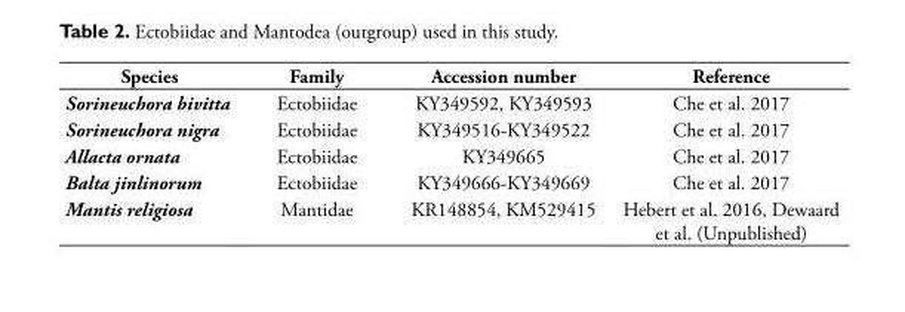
<table><thead><tr><td>Species</td><td>Family</td><td>Accession number</td><td>Reference</td></tr></thead><tbody><tr><td>Sorineuchora bivitta</td><td>Ectobiidae</td><td>KY349592, KY349593</td><td>Che et al. 2017</td></tr><tr><td>Sorineuchora nigra</td><td>Ectobiidae</td><td>KY349516-KY349522</td><td>Che et al. 2017</td></tr><tr><td>Allacta ornata</td><td>Ectobiidae</td><td>KY349665</td><td>Che et al. 2017</td></tr><tr><td>Balta jinlinorum</td><td>Ectobiidae</td><td>KY349666-KY349669</td><td>Che et al. 2017</td></tr><tr><td>Mantis religiosa</td><td>Mantidae</td><td>KR148854, KM529415</td><td>Hebert et al. 2016, Dewaard et al. (Unpublished)</td></tr></tbody></table>